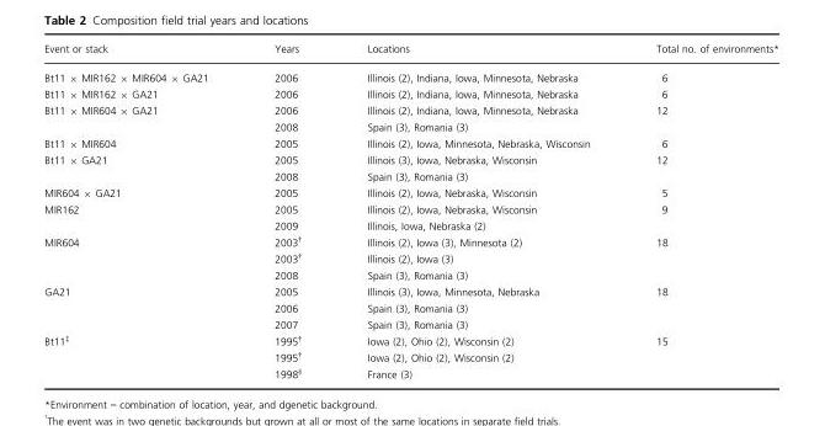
<table><thead><tr><td>Event or stack</td><td>Years</td><td>Locations</td><td>Total no. of environments*</td></tr></thead><tbody><tr><td>Bt11 × MIR162 × MIR604 × GA21</td><td>2006</td><td>Illinois (2), Indiana, Iowa, Minnesota, Nebraska</td><td>6</td></tr><tr><td>Bt11 × MIR162 × GA21</td><td>2006</td><td>Illinois (2), Indiana, Iowa, Minnesota, Nebraska</td><td>6</td></tr><tr><td rowspan="2">Bt11 × MIR604 × GA21</td><td>2006</td><td>Illinois (2), Indiana, Iowa, Minnesota, Nebraska</td><td>12</td></tr><tr><td>2008</td><td>Spain (3), Romania (3)</td><td></td></tr><tr><td>Bt11 × MIR604</td><td>2005</td><td>Illinois (2), Iowa, Minnesota, Nebraska, Wisconsin</td><td>6</td></tr><tr><td rowspan="2">Bt11 × GA21</td><td>2005</td><td>Illinois (3), Iowa, Nebraska, Wisconsin</td><td>12</td></tr><tr><td>2008</td><td>Spain (3), Romania (3)</td><td></td></tr><tr><td>MIR604 × GA21</td><td>2005</td><td>Illinois (2), Iowa, Nebraska, Wisconsin</td><td>5</td></tr><tr><td rowspan="2">MIR162</td><td>2005</td><td>Illinois (2), Iowa, Nebraska, Wisconsin</td><td>9</td></tr><tr><td>2009</td><td>Illinois, Iowa, Nebraska (2)</td><td></td></tr><tr><td rowspan="3">MIR604</td><td>2003†</td><td>Illinois (2), Iowa (3), Minnesota (2)</td><td>18</td></tr><tr><td>2003†</td><td>Illinois (2), Iowa (3)</td><td></td></tr><tr><td>2008</td><td>Spain (3), Romania (3)</td><td></td></tr><tr><td rowspan="3">GA21</td><td>2005</td><td>Illinois (3), Iowa, Minnesota, Nebraska</td><td>18</td></tr><tr><td>2006</td><td>Spain (3), Romania (3)</td><td></td></tr><tr><td>2007</td><td>Spain (3), Romania (3)</td><td></td></tr><tr><td rowspan="3">Bt11‡</td><td>1995†</td><td>Iowa (2), Ohio (2), Wisconsin (2)</td><td>15</td></tr><tr><td>1995†</td><td>Iowa (2), Ohio (2), Wisconsin (2)</td><td></td></tr><tr><td>1998§</td><td>France (3)</td><td></td></tr></tbody></table>